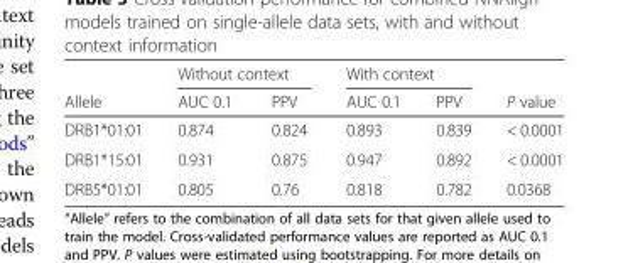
<table><thead><tr><td rowspan="2">Allele</td><td colspan="2">Without context</td><td colspan="2">With context</td><td rowspan="2">P value</td></tr><tr><td>AUC 0.1</td><td>PPV</td><td>AUC 0.1</td><td>PPV</td></tr></thead><tbody><tr><td>DRB1*01:01</td><td>0.874</td><td>0.824</td><td>0.893</td><td>0.839</td><td>&lt; 0.0001</td></tr><tr><td>DRB1*15:01</td><td>0.931</td><td>0.875</td><td>0.947</td><td>0.892</td><td>&lt; 0.0001</td></tr><tr><td>DRB5*01:01</td><td>0.805</td><td>0.76</td><td>0.818</td><td>0.782</td><td>0.0368</td></tr></tbody></table>